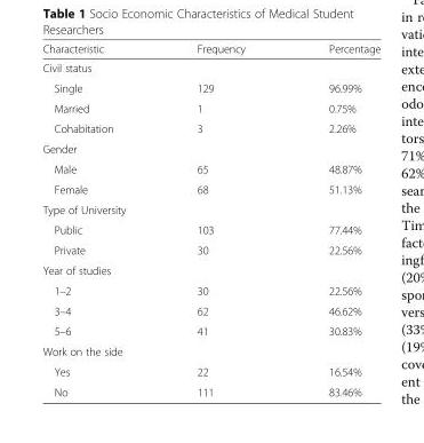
<table><thead><tr><td>Characteristic</td><td>Frequency</td><td>Percentage</td></tr></thead><tbody><tr><td colspan="3">Civil status</td></tr><tr><td>Single</td><td>129</td><td>96.99%</td></tr><tr><td>Married</td><td>1</td><td>0.75%</td></tr><tr><td>Cohabitation</td><td>3</td><td>2.26%</td></tr><tr><td colspan="3">Gender</td></tr><tr><td>Male</td><td>65</td><td>48.87%</td></tr><tr><td>Female</td><td>68</td><td>51.13%</td></tr><tr><td colspan="3">Type of University</td></tr><tr><td>Public</td><td>103</td><td>77.44%</td></tr><tr><td>Private</td><td>30</td><td>22.56%</td></tr><tr><td colspan="3">Year of studies</td></tr><tr><td>1–2</td><td>30</td><td>22.56%</td></tr><tr><td>3–4</td><td>62</td><td>46.62%</td></tr><tr><td>5–6</td><td>41</td><td>30.83%</td></tr><tr><td colspan="3">Work on the side</td></tr><tr><td>Yes</td><td>22</td><td>16.54%</td></tr><tr><td>No</td><td>111</td><td>83.46%</td></tr></tbody></table>